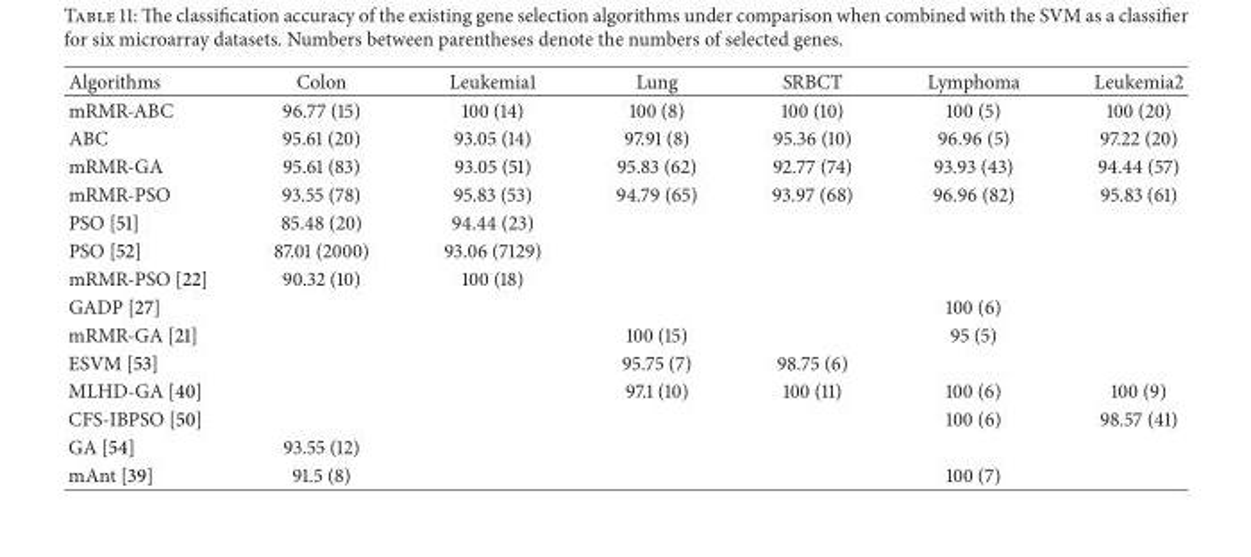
<table><thead><tr><td>Algorithms</td><td>Colon</td><td>Leukemia1</td><td>Lung</td><td>SRBCT</td><td>Lymphoma</td><td>Leukemia2</td></tr></thead><tbody><tr><td>mRMR-ABC</td><td>96.77 (15)</td><td>100 (14)</td><td>100 (8)</td><td>100 (10)</td><td>100 (5)</td><td>100 (20)</td></tr><tr><td>ABC</td><td>95.61 (20)</td><td>93.05 (14)</td><td>97.91 (8)</td><td>95.36 (10)</td><td>96.96 (5)</td><td>97.22 (20)</td></tr><tr><td>mRMR-GA</td><td>95.61 (83)</td><td>93.05 (51)</td><td>95.83 (62)</td><td>92.77 (74)</td><td>93.93 (43)</td><td>94.44 (57)</td></tr><tr><td>mRMR-PSO</td><td>93.55 (78)</td><td>95.83 (53)</td><td>94.79 (65)</td><td>93.97 (68)</td><td>96.96 (82)</td><td>95.83 (61)</td></tr><tr><td>PSO [51]</td><td>85.48 (20)</td><td>94.44 (23)</td><td></td><td></td><td></td><td></td></tr><tr><td>PSO [52]</td><td>87.01 (2000)</td><td>93.06 (7129)</td><td></td><td></td><td></td><td></td></tr><tr><td>mRMR-PSO [22]</td><td>90.32 (10)</td><td>100 (18)</td><td></td><td></td><td></td><td></td></tr><tr><td>GADP [27]</td><td></td><td></td><td></td><td></td><td>100 (6)</td><td></td></tr><tr><td>mRMR-GA [21]</td><td></td><td></td><td>100 (15)</td><td></td><td>95 (5)</td><td></td></tr><tr><td>ESVM [53]</td><td></td><td></td><td>95.75 (7)</td><td>98.75 (6)</td><td></td><td></td></tr><tr><td>MLHD-GA [40]</td><td></td><td></td><td>97.1 (10)</td><td>100 (11)</td><td>100 (6)</td><td>100 (9)</td></tr><tr><td>CFS-IBPSO [50]</td><td></td><td></td><td></td><td></td><td>100 (6)</td><td>98.57 (41)</td></tr><tr><td>GA [54]</td><td>93.55 (12)</td><td></td><td></td><td></td><td></td><td></td></tr><tr><td>mAnt [39]</td><td>91.5 (8)</td><td></td><td></td><td></td><td>100 (7)</td><td></td></tr></tbody></table>